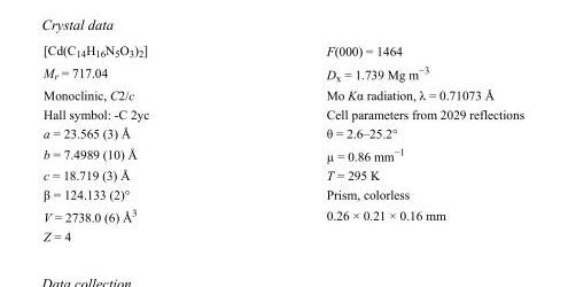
<table><tbody><tr><td>[Cd(C<sub>14</sub>H<sub>16</sub>N<sub>5</sub>O<sub>3</sub>)<sub>2</sub>]</td><td>F(000) = 1464</td></tr><tr><td>M<sub>r</sub> = 717.04</td><td>D<sub>x</sub> = 1.739 Mg m<sup>−3</sup></td></tr><tr><td>Monoclinic, C2/c</td><td>Mo Kα radiation, λ = 0.71073 Å</td></tr><tr><td>Hall symbol: -C 2yc</td><td>Cell parameters from 2029 reflections</td></tr><tr><td>a = 23.565 (3) Å</td><td>θ = 2.6–25.2°</td></tr><tr><td>b = 7.4989 (10) Å</td><td>µ = 0.86 mm<sup>−1</sup></td></tr><tr><td>c = 18.719 (3) Å</td><td>T = 295 K</td></tr><tr><td>β = 124.133 (2)°</td><td>Prism, colorless</td></tr><tr><td>V = 2738.0 (6) Å<sup>3</sup></td><td>0.26 × 0.21 × 0.16 mm</td></tr><tr><td>Z = 4</td><td></td></tr></tbody></table>